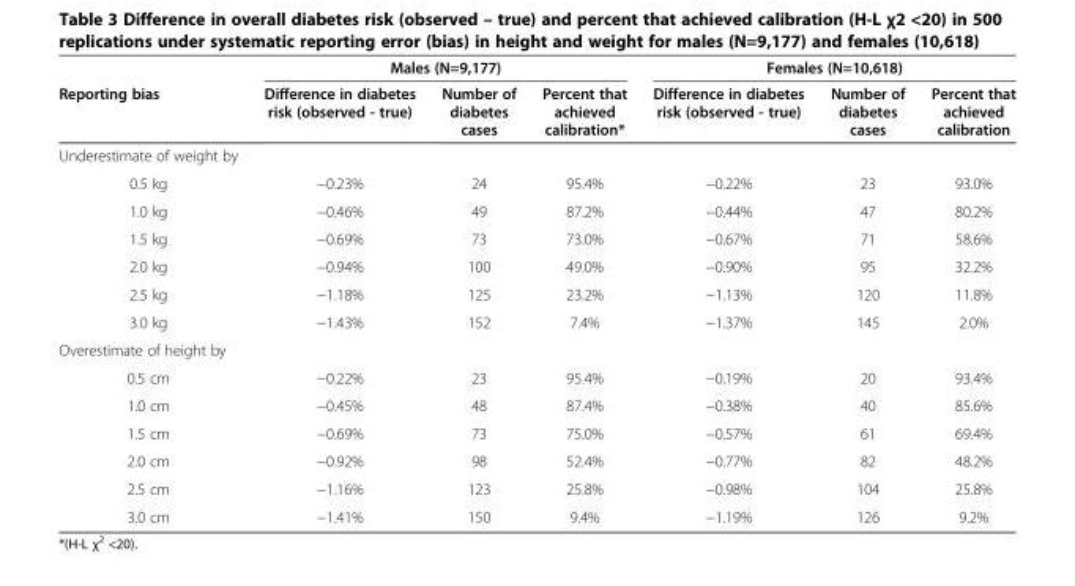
<table><thead><tr><td rowspan="2">Reporting bias</td><td colspan="3">Males (N=9,177)</td><td colspan="3">Females (N=10,618)</td></tr><tr><td>Difference in diabetes risk (observed - true)</td><td>Number of diabetes cases</td><td>Percent that achieved calibration*</td><td>Difference in diabetes risk (observed - true)</td><td>Number of diabetes cases</td><td>Percent that achieved calibration</td></tr></thead><tbody><tr><td colspan="7">Underestimate of weight by</td></tr><tr><td>0.5 kg</td><td>−0.23%</td><td>24</td><td>95.4%</td><td>−0.22%</td><td>23</td><td>93.0%</td></tr><tr><td>1.0 kg</td><td>−0.46%</td><td>49</td><td>87.2%</td><td>−0.44%</td><td>47</td><td>80.2%</td></tr><tr><td>1.5 kg</td><td>−0.69%</td><td>73</td><td>73.0%</td><td>−0.67%</td><td>71</td><td>58.6%</td></tr><tr><td>2.0 kg</td><td>−0.94%</td><td>100</td><td>49.0%</td><td>−0.90%</td><td>95</td><td>32.2%</td></tr><tr><td>2.5 kg</td><td>−1.18%</td><td>125</td><td>23.2%</td><td>−1.13%</td><td>120</td><td>11.8%</td></tr><tr><td>3.0 kg</td><td>−1.43%</td><td>152</td><td>7.4%</td><td>−1.37%</td><td>145</td><td>2.0%</td></tr><tr><td colspan="7">Overestimate of height by</td></tr><tr><td>0.5 cm</td><td>−0.22%</td><td>23</td><td>95.4%</td><td>−0.19%</td><td>20</td><td>93.4%</td></tr><tr><td>1.0 cm</td><td>−0.45%</td><td>48</td><td>87.4%</td><td>−0.38%</td><td>40</td><td>85.6%</td></tr><tr><td>1.5 cm</td><td>−0.69%</td><td>73</td><td>75.0%</td><td>−0.57%</td><td>61</td><td>69.4%</td></tr><tr><td>2.0 cm</td><td>−0.92%</td><td>98</td><td>52.4%</td><td>−0.77%</td><td>82</td><td>48.2%</td></tr><tr><td>2.5 cm</td><td>−1.16%</td><td>123</td><td>25.8%</td><td>−0.98%</td><td>104</td><td>25.8%</td></tr><tr><td>3.0 cm</td><td>−1.41%</td><td>150</td><td>9.4%</td><td>−1.19%</td><td>126</td><td>9.2%</td></tr></tbody></table>